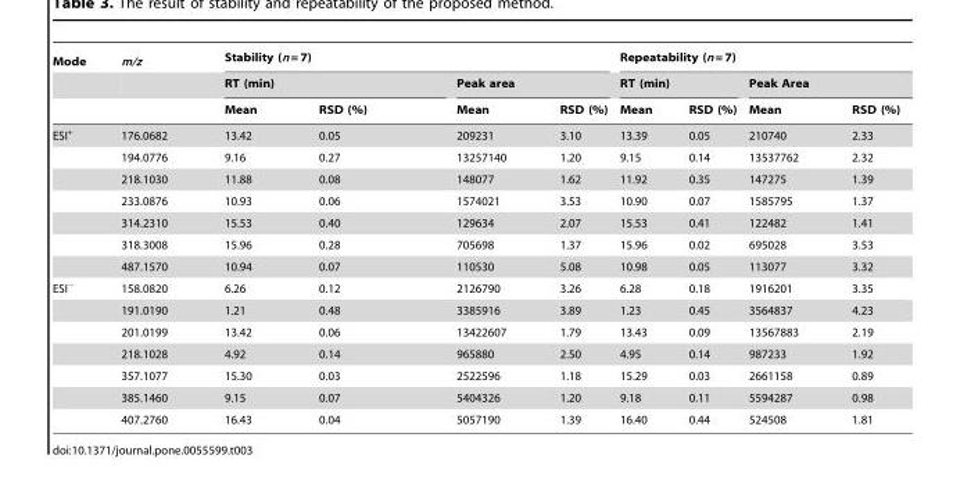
<table><thead><tr><td rowspan="3">Mode</td><td rowspan="3">m/z</td><td colspan="4">Stability (n = 7)</td><td colspan="4">Repeatability (n = 7)</td></tr><tr><td colspan="2">RT (min)</td><td colspan="2">Peak area</td><td colspan="2">RT (min)</td><td colspan="2">Peak Area</td></tr><tr><td>Mean</td><td>RSD (%)</td><td>Mean</td><td>RSD (%)</td><td>Mean</td><td>RSD (%)</td><td>Mean</td><td>RSD (%)</td></tr></thead><tbody><tr><td rowspan="7">ESI<sup>+</sup></td><td>176.0682</td><td>13.42</td><td>0.05</td><td>209231</td><td>3.10</td><td>13.39</td><td>0.05</td><td>210740</td><td>2.33</td></tr><tr><td>194.0776</td><td>9.16</td><td>0.27</td><td>13257140</td><td>1.20</td><td>9.15</td><td>0.14</td><td>13537762</td><td>2.32</td></tr><tr><td>218.1030</td><td>11.88</td><td>0.08</td><td>148077</td><td>1.62</td><td>11.92</td><td>0.35</td><td>147275</td><td>1.39</td></tr><tr><td>233.0876</td><td>10.93</td><td>0.06</td><td>1574021</td><td>3.53</td><td>10.90</td><td>0.07</td><td>1585795</td><td>1.37</td></tr><tr><td>314.2310</td><td>15.53</td><td>0.40</td><td>129634</td><td>2.07</td><td>15.53</td><td>0.41</td><td>122482</td><td>1.41</td></tr><tr><td>318.3008</td><td>15.96</td><td>0.28</td><td>705698</td><td>1.37</td><td>15.96</td><td>0.02</td><td>695028</td><td>3.53</td></tr><tr><td>487.1570</td><td>10.94</td><td>0.07</td><td>110530</td><td>5.08</td><td>10.98</td><td>0.05</td><td>113077</td><td>3.32</td></tr><tr><td rowspan="7">ESI<sup>−</sup></td><td>158.0820</td><td>6.26</td><td>0.12</td><td>2126790</td><td>3.26</td><td>6.28</td><td>0.18</td><td>1916201</td><td>3.35</td></tr><tr><td>191.0190</td><td>1.21</td><td>0.48</td><td>3385916</td><td>3.89</td><td>1.23</td><td>0.45</td><td>3564837</td><td>4.23</td></tr><tr><td>201.0199</td><td>13.42</td><td>0.06</td><td>13422607</td><td>1.79</td><td>13.43</td><td>0.09</td><td>13567883</td><td>2.19</td></tr><tr><td>218.1028</td><td>4.92</td><td>0.14</td><td>965880</td><td>2.50</td><td>4.95</td><td>0.14</td><td>987233</td><td>1.92</td></tr><tr><td>357.1077</td><td>15.30</td><td>0.03</td><td>2522596</td><td>1.18</td><td>15.29</td><td>0.03</td><td>2661158</td><td>0.89</td></tr><tr><td>385.1460</td><td>9.15</td><td>0.07</td><td>5404326</td><td>1.20</td><td>9.18</td><td>0.11</td><td>5594287</td><td>0.98</td></tr><tr><td>407.2760</td><td>16.43</td><td>0.04</td><td>5057190</td><td>1.39</td><td>16.40</td><td>0.44</td><td>524508</td><td>1.81</td></tr></tbody></table>